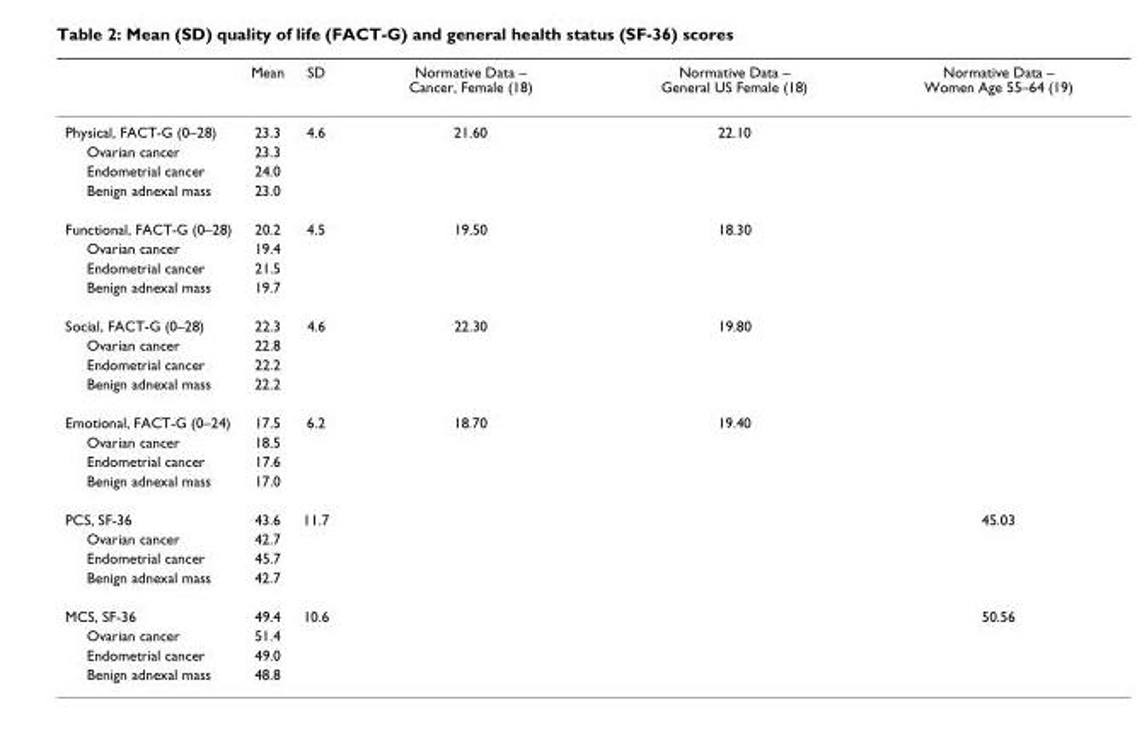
<table><thead><tr><td></td><td>Mean</td><td>SD</td><td>Normative Data – Cancer, Female (18)</td><td>Normative Data – General US Female (18)</td><td>Normative Data – Women Age 55–64 (19)</td></tr></thead><tbody><tr><td>Physical, FACT-G (0–28)</td><td>23.3</td><td>4.6</td><td>21.60</td><td>22.10</td><td></td></tr><tr><td>Ovarian cancer</td><td>23.3</td><td></td><td></td><td></td><td></td></tr><tr><td>Endometrial cancer</td><td>24.0</td><td></td><td></td><td></td><td></td></tr><tr><td>Benign adnexal mass</td><td>23.0</td><td></td><td></td><td></td><td></td></tr><tr><td>Functional, FACT-G (0–28)</td><td>20.2</td><td>4.5</td><td>19.50</td><td>18.30</td><td></td></tr><tr><td>Ovarian cancer</td><td>19.4</td><td></td><td></td><td></td><td></td></tr><tr><td>Endometrial cancer</td><td>21.5</td><td></td><td></td><td></td><td></td></tr><tr><td>Benign adnexal mass</td><td>19.7</td><td></td><td></td><td></td><td></td></tr><tr><td>Social, FACT-G (0–28)</td><td>22.3</td><td>4.6</td><td>22.30</td><td>19.80</td><td></td></tr><tr><td>Ovarian cancer</td><td>22.8</td><td></td><td></td><td></td><td></td></tr><tr><td>Endometrial cancer</td><td>22.2</td><td></td><td></td><td></td><td></td></tr><tr><td>Benign adnexal mass</td><td>22.2</td><td></td><td></td><td></td><td></td></tr><tr><td>Emotional, FACT-G (0–24)</td><td>17.5</td><td>6.2</td><td>18.70</td><td>19.40</td><td></td></tr><tr><td>Ovarian cancer</td><td>18.5</td><td></td><td></td><td></td><td></td></tr><tr><td>Endometrial cancer</td><td>17.6</td><td></td><td></td><td></td><td></td></tr><tr><td>Benign adnexal mass</td><td>17.0</td><td></td><td></td><td></td><td></td></tr><tr><td>PCS, SF-36</td><td>43.6</td><td>11.7</td><td></td><td></td><td>45.03</td></tr><tr><td>Ovarian cancer</td><td>42.7</td><td></td><td></td><td></td><td></td></tr><tr><td>Endometrial cancer</td><td>45.7</td><td></td><td></td><td></td><td></td></tr><tr><td>Benign adnexal mass</td><td>42.7</td><td></td><td></td><td></td><td></td></tr><tr><td>MCS, SF-36</td><td>49.4</td><td>10.6</td><td></td><td></td><td>50.56</td></tr><tr><td>Ovarian cancer</td><td>51.4</td><td></td><td></td><td></td><td></td></tr><tr><td>Endometrial cancer</td><td>49.0</td><td></td><td></td><td></td><td></td></tr><tr><td>Benign adnexal mass</td><td>48.8</td><td></td><td></td><td></td><td></td></tr></tbody></table>